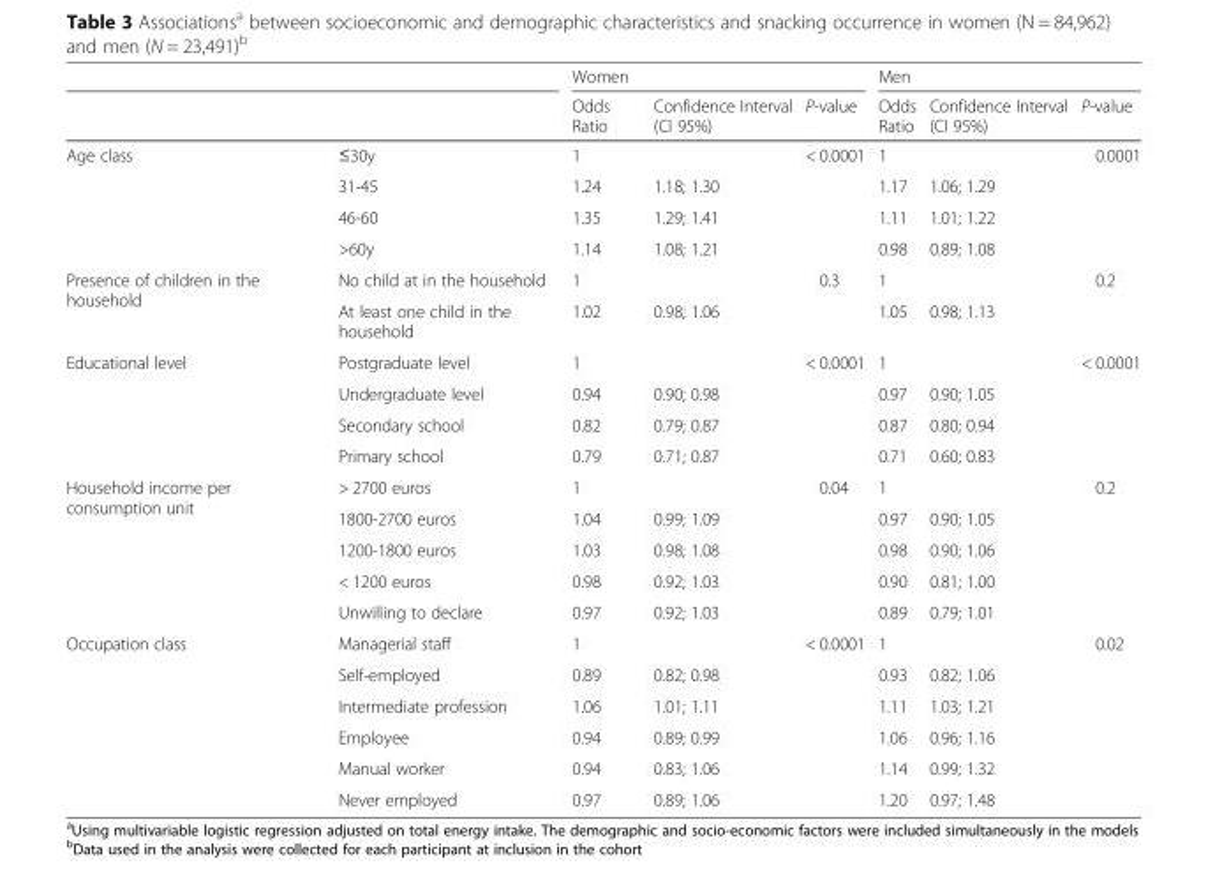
<table><thead><tr><td rowspan="2"></td><td rowspan="2"></td><td colspan="3">Women</td><td colspan="3">Men</td></tr><tr><td>Odds Ratio</td><td>Confidence Interval (CI 95%)</td><td>P-value</td><td>Odds Ratio</td><td>Confidence Interval (CI 95%)</td><td>P-value</td></tr></thead><tbody><tr><td rowspan="4">Age class</td><td>≤30y</td><td>1</td><td></td><td>&lt; 0.0001</td><td>1</td><td></td><td>0.0001</td></tr><tr><td>31-45</td><td>1.24</td><td>1.18; 1.30</td><td></td><td>1.17</td><td>1.06; 1.29</td><td></td></tr><tr><td>46-60</td><td>1.35</td><td>1.29; 1.41</td><td></td><td>1.11</td><td>1.01; 1.22</td><td></td></tr><tr><td>&gt;60y</td><td>1.14</td><td>1.08; 1.21</td><td></td><td>0.98</td><td>0.89; 1.08</td><td></td></tr><tr><td rowspan="2">Presence of children in the household</td><td>No child at in the household</td><td>1</td><td></td><td>0.3</td><td>1</td><td></td><td>0.2</td></tr><tr><td>At least one child in the household</td><td>1.02</td><td>0.98; 1.06</td><td></td><td>1.05</td><td>0.98; 1.13</td><td></td></tr><tr><td rowspan="4">Educational level</td><td>Postgraduate level</td><td>1</td><td></td><td>&lt; 0.0001</td><td>1</td><td></td><td>&lt; 0.0001</td></tr><tr><td>Undergraduate level</td><td>0.94</td><td>0.90; 0.98</td><td></td><td>0.97</td><td>0.90; 1.05</td><td></td></tr><tr><td>Secondary school</td><td>0.82</td><td>0.79; 0.87</td><td></td><td>0.87</td><td>0.80; 0.94</td><td></td></tr><tr><td>Primary school</td><td>0.79</td><td>0.71; 0.87</td><td></td><td>0.71</td><td>0.60; 0.83</td><td></td></tr><tr><td rowspan="5">Household income per consumption unit</td><td>&gt; 2700 euros</td><td>1</td><td></td><td>0.04</td><td>1</td><td></td><td>0.2</td></tr><tr><td>1800-2700 euros</td><td>1.04</td><td>0.99; 1.09</td><td></td><td>0.97</td><td>0.90; 1.05</td><td></td></tr><tr><td>1200-1800 euros</td><td>1.03</td><td>0.98; 1.08</td><td></td><td>0.98</td><td>0.90; 1.06</td><td></td></tr><tr><td>&lt; 1200 euros</td><td>0.98</td><td>0.92; 1.03</td><td></td><td>0.90</td><td>0.81; 1.00</td><td></td></tr><tr><td>Unwilling to declare</td><td>0.97</td><td>0.92; 1.03</td><td></td><td>0.89</td><td>0.79; 1.01</td><td></td></tr><tr><td rowspan="6">Occupation class</td><td>Managerial staff</td><td>1</td><td></td><td>&lt; 0.0001</td><td>1</td><td></td><td>0.02</td></tr><tr><td>Self-employed</td><td>0.89</td><td>0.82; 0.98</td><td></td><td>0.93</td><td>0.82; 1.06</td><td></td></tr><tr><td>Intermediate profession</td><td>1.06</td><td>1.01; 1.11</td><td></td><td>1.11</td><td>1.03; 1.21</td><td></td></tr><tr><td>Employee</td><td>0.94</td><td>0.89; 0.99</td><td></td><td>1.06</td><td>0.96; 1.16</td><td></td></tr><tr><td>Manual worker</td><td>0.94</td><td>0.83; 1.06</td><td></td><td>1.14</td><td>0.99; 1.32</td><td></td></tr><tr><td>Never employed</td><td>0.97</td><td>0.89; 1.06</td><td></td><td>1.20</td><td>0.97; 1.48</td><td></td></tr></tbody></table>